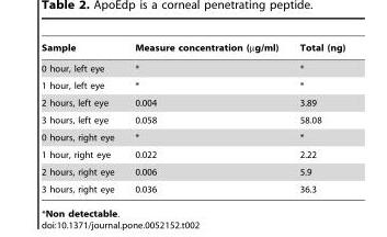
<table><thead><tr><td>Sample</td><td>Measure concentration (µg/ml)</td><td>Total (ng)</td></tr></thead><tbody><tr><td>0 hour, left eye</td><td>*</td><td>*</td></tr><tr><td>1 hour, left eye</td><td>*</td><td>*</td></tr><tr><td>2 hours, left eye</td><td>0.004</td><td>3.89</td></tr><tr><td>3 hours, left eye</td><td>0.058</td><td>58.08</td></tr><tr><td>0 hours, right eye</td><td>*</td><td>*</td></tr><tr><td>1 hour, right eye</td><td>0.022</td><td>2.22</td></tr><tr><td>2 hours, right eye</td><td>0.006</td><td>5.9</td></tr><tr><td>3 hours, right eye</td><td>0.036</td><td>36.3</td></tr></tbody></table>